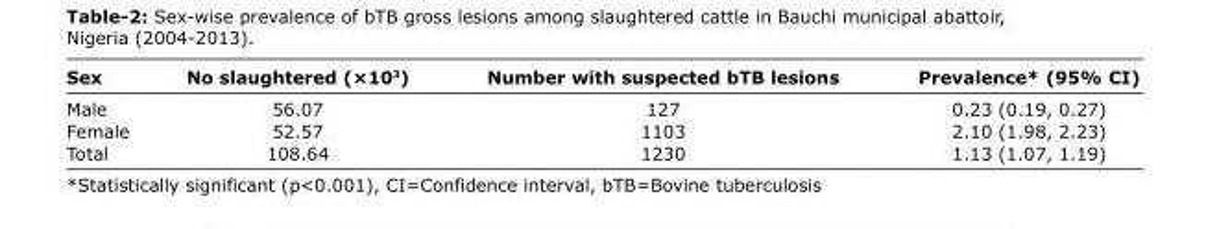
<table><thead><tr><td>Sex</td><td>No slaughtered (×10<sup>3</sup>)</td><td>Number with suspected bTB lesions</td><td>Prevalence* (95% CI)</td></tr></thead><tbody><tr><td>Male</td><td>56.07</td><td>127</td><td>0.23 (0.19, 0.27)</td></tr><tr><td>Female</td><td>52.57</td><td>1103</td><td>2.10 (1.98, 2.23)</td></tr><tr><td>Total</td><td>108.64</td><td>1230</td><td>1.13 (1.07, 1.19)</td></tr></tbody></table>